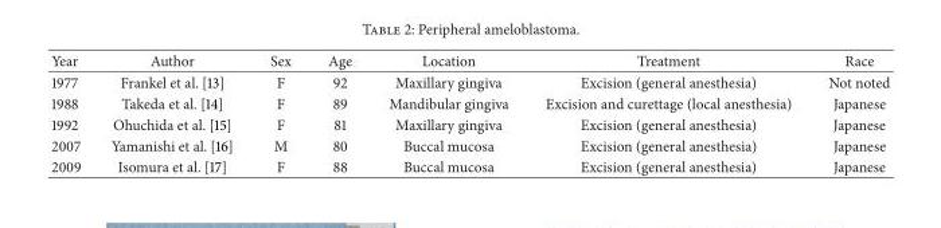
<table><thead><tr><td>Year</td><td>Author</td><td>Sex</td><td>Age</td><td>Location</td><td>Treatment</td><td>Race</td></tr></thead><tbody><tr><td>1977</td><td>Frankel et al. [13]</td><td>F</td><td>92</td><td>Maxillary gingiva</td><td>Excision (general anesthesia)</td><td>Not noted</td></tr><tr><td>1988</td><td>Takeda et al. [14]</td><td>F</td><td>89</td><td>Mandibular gingiva</td><td>Excision and curettage (local anesthesia)</td><td>Japanese</td></tr><tr><td>1992</td><td>Ohuchida et al. [15]</td><td>F</td><td>81</td><td>Maxillary gingiva</td><td>Excision (general anesthesia)</td><td>Japanese</td></tr><tr><td>2007</td><td>Yamanishi et al. [16]</td><td>M</td><td>80</td><td>Buccal mucosa</td><td>Excision (general anesthesia)</td><td>Japanese</td></tr><tr><td>2009</td><td>Isomura et al. [17]</td><td>F</td><td>88</td><td>Buccal mucosa</td><td>Excision (general anesthesia)</td><td>Japanese</td></tr></tbody></table>